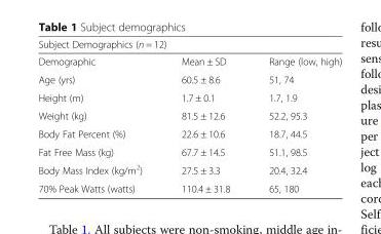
<table><thead><tr><td colspan="3">Subject Demographics (n = 12)</td></tr><tr><td>Demographic</td><td>Mean ± SD</td><td>Range (low, high)</td></tr></thead><tbody><tr><td>Age (yrs)</td><td>60.5 ± 8.6</td><td>51, 74</td></tr><tr><td>Height (m)</td><td>1.7 ± 0.1</td><td>1.7, 1.9</td></tr><tr><td>Weight (kg)</td><td>81.5 ± 12.6</td><td>52.2, 95.3</td></tr><tr><td>Body Fat Percent (%)</td><td>22.6 ± 10.6</td><td>18.7, 44.5</td></tr><tr><td>Fat Free Mass (kg)</td><td>67.7 ± 14.5</td><td>51.1, 98.5</td></tr><tr><td>Body Mass Index (kg/m<sup>2</sup>)</td><td>27.5 ± 3.3</td><td>20.4, 32.4</td></tr><tr><td>70% Peak Watts (watts)</td><td>110.4 ± 31.8</td><td>65, 180</td></tr></tbody></table>